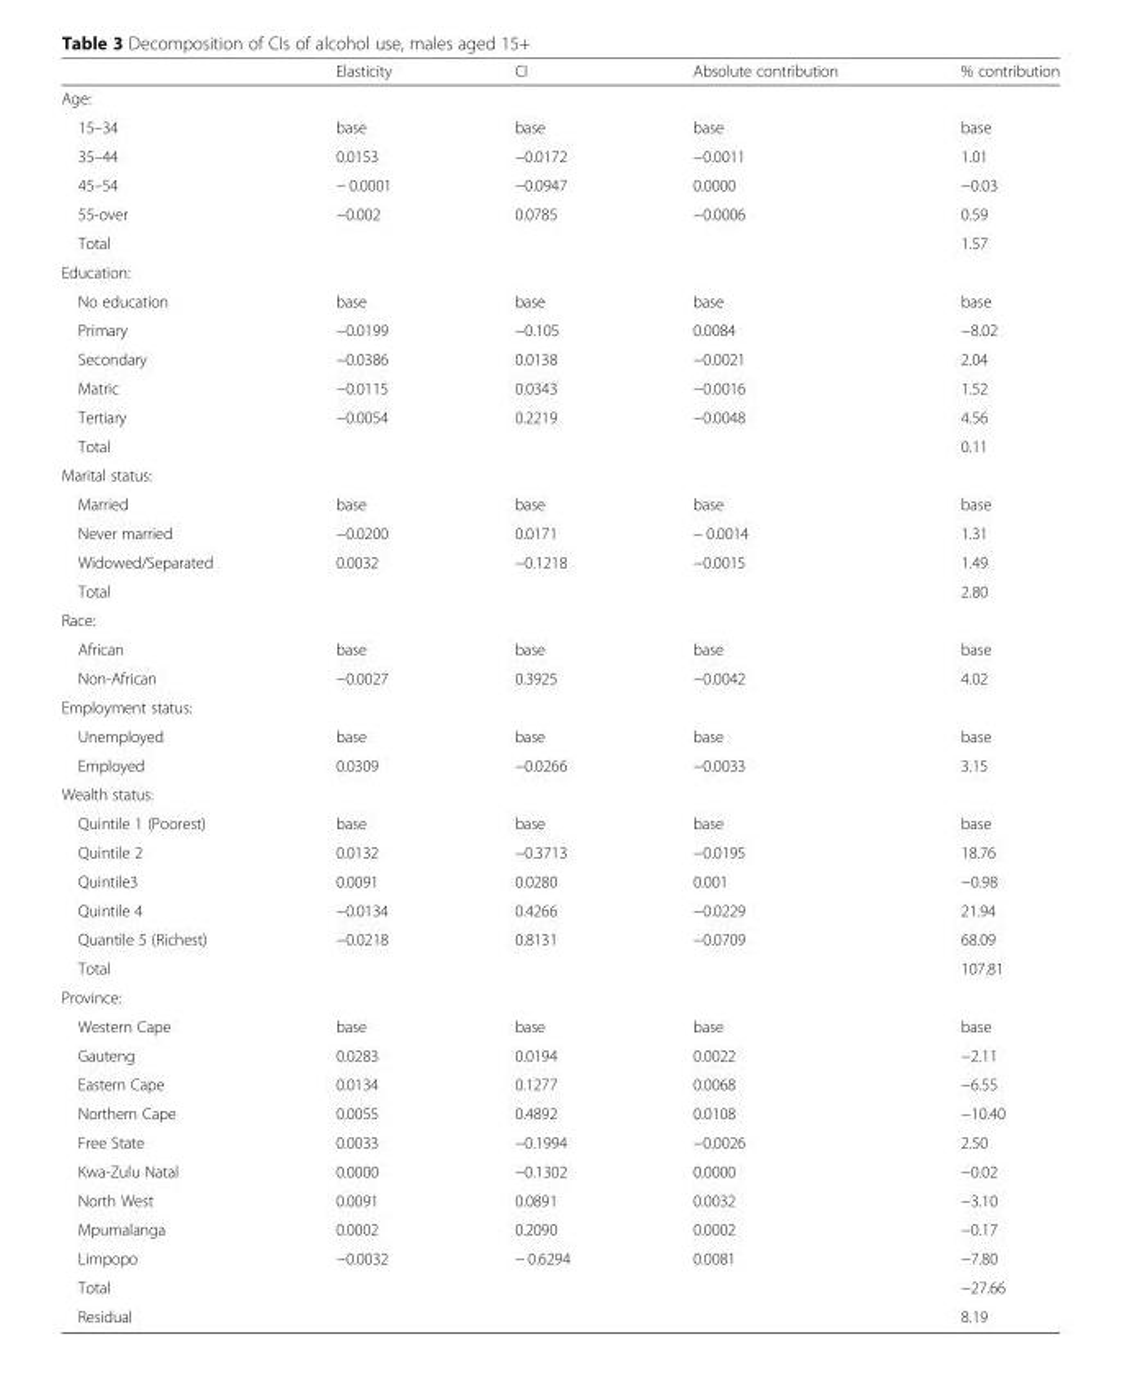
<table><thead><tr><td></td><td>Elasticity</td><td>CI</td><td>Absolute contribution</td><td>% contribution</td></tr></thead><tbody><tr><td colspan="5">Age:</td></tr><tr><td>15–34</td><td>base</td><td>base</td><td>base</td><td>base</td></tr><tr><td>35–44</td><td>0.0153</td><td>−0.0172</td><td>−0.0011</td><td>1.01</td></tr><tr><td>45–54</td><td>− 0.0001</td><td>−0.0947</td><td>0.0000</td><td>−0.03</td></tr><tr><td>55-over</td><td>−0.002</td><td>0.0785</td><td>−0.0006</td><td>0.59</td></tr><tr><td>Total</td><td></td><td></td><td></td><td>1.57</td></tr><tr><td colspan="5">Education:</td></tr><tr><td>No education</td><td>base</td><td>base</td><td>base</td><td>base</td></tr><tr><td>Primary</td><td>−0.0199</td><td>−0.105</td><td>0.0084</td><td>−8.02</td></tr><tr><td>Secondary</td><td>−0.0386</td><td>0.0138</td><td>−0.0021</td><td>2.04</td></tr><tr><td>Matric</td><td>−0.0115</td><td>0.0343</td><td>−0.0016</td><td>1.52</td></tr><tr><td>Tertiary</td><td>−0.0054</td><td>0.2219</td><td>−0.0048</td><td>4.56</td></tr><tr><td>Total</td><td></td><td></td><td></td><td>0.11</td></tr><tr><td colspan="5">Marital status:</td></tr><tr><td>Married</td><td>base</td><td>base</td><td>base</td><td>base</td></tr><tr><td>Never married</td><td>−0.0200</td><td>0.0171</td><td>− 0.0014</td><td>1.31</td></tr><tr><td>Widowed/Separated</td><td>0.0032</td><td>−0.1218</td><td>−0.0015</td><td>1.49</td></tr><tr><td>Total</td><td></td><td></td><td></td><td>2.80</td></tr><tr><td colspan="5">Race:</td></tr><tr><td>African</td><td>base</td><td>base</td><td>base</td><td>base</td></tr><tr><td>Non-African</td><td>−0.0027</td><td>0.3925</td><td>−0.0042</td><td>4.02</td></tr><tr><td colspan="5">Employment status:</td></tr><tr><td>Unemployed</td><td>base</td><td>base</td><td>base</td><td>base</td></tr><tr><td>Employed</td><td>0.0309</td><td>−0.0266</td><td>−0.0033</td><td>3.15</td></tr><tr><td colspan="5">Wealth status:</td></tr><tr><td>Quintile 1 (Poorest)</td><td>base</td><td>base</td><td>base</td><td>base</td></tr><tr><td>Quintile 2</td><td>0.0132</td><td>−0.3713</td><td>−0.0195</td><td>18.76</td></tr><tr><td>Quintile3</td><td>0.0091</td><td>0.0280</td><td>0.001</td><td>−0.98</td></tr><tr><td>Quintile 4</td><td>−0.0134</td><td>0.4266</td><td>−0.0229</td><td>21.94</td></tr><tr><td>Quantile 5 (Richest)</td><td>−0.0218</td><td>0.8131</td><td>−0.0709</td><td>68.09</td></tr><tr><td>Total</td><td></td><td></td><td></td><td>107.81</td></tr><tr><td colspan="5">Province:</td></tr><tr><td>Western Cape</td><td>base</td><td>base</td><td>base</td><td>base</td></tr><tr><td>Gauteng</td><td>0.0283</td><td>0.0194</td><td>0.0022</td><td>−2.11</td></tr><tr><td>Eastern Cape</td><td>0.0134</td><td>0.1277</td><td>0.0068</td><td>−6.55</td></tr><tr><td>Northern Cape</td><td>0.0055</td><td>0.4892</td><td>0.0108</td><td>−10.40</td></tr><tr><td>Free State</td><td>0.0033</td><td>−0.1994</td><td>−0.0026</td><td>2.50</td></tr><tr><td>Kwa-Zulu Natal</td><td>0.0000</td><td>−0.1302</td><td>0.0000</td><td>−0.02</td></tr><tr><td>North West</td><td>0.0091</td><td>0.0891</td><td>0.0032</td><td>−3.10</td></tr><tr><td>Mpumalanga</td><td>0.0002</td><td>0.2090</td><td>0.0002</td><td>−0.17</td></tr><tr><td>Limpopo</td><td>−0.0032</td><td>− 0.6294</td><td>0.0081</td><td>−7.80</td></tr><tr><td>Total</td><td></td><td></td><td></td><td>−27.66</td></tr><tr><td>Residual</td><td></td><td></td><td></td><td>8.19</td></tr></tbody></table>